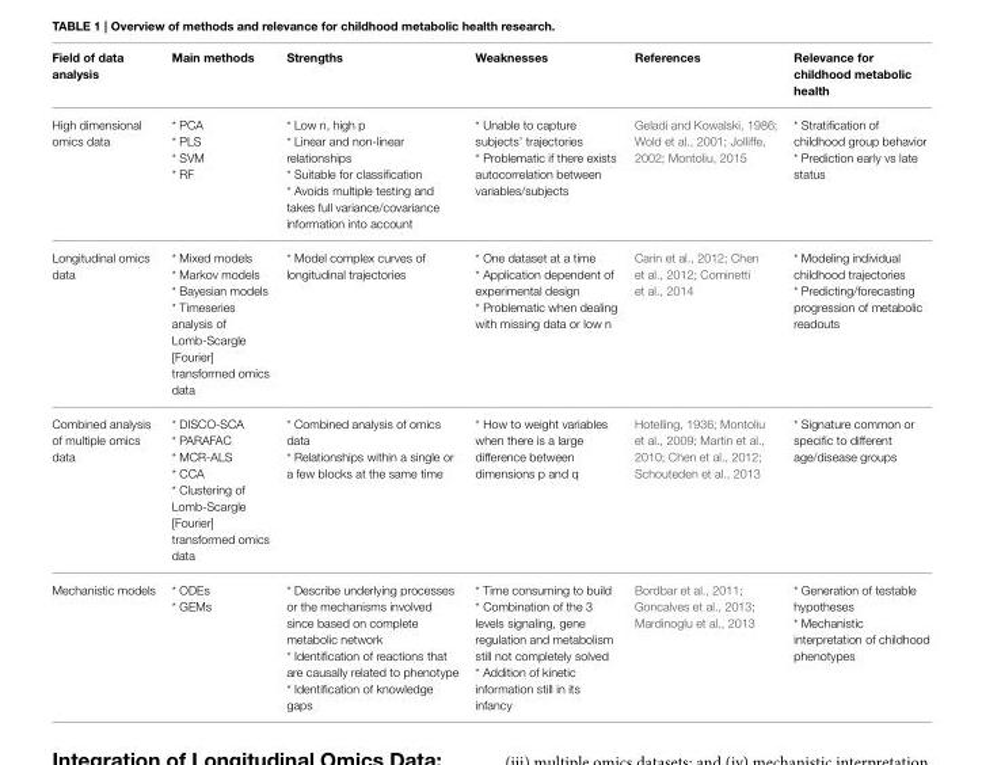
<table><thead><tr><td>Field of data analysis</td><td>Main methods</td><td>Strengths</td><td>Weaknesses</td><td>References</td><td>Relevance for childhood metabolic health</td></tr></thead><tbody><tr><td>High dimensional omics data</td><td>* PCA * PLS * SVM * RF</td><td>* Low n, high p * Linear and non-linear relationships * Suitable for classification * Avoids multiple testing and takes full variance/covariance information into account</td><td>* Unable to capture subjects’ trajectories * Problematic if there exists autocorrelation between variables/subjects</td><td>Geladi and Kowalski, 1986; Wold et al., 2001; Jolliffe, 2002; Montoliu, 2015</td><td>* Stratification of childhood group behavior * Prediction early vs late status</td></tr><tr><td>Longitudinal omics data</td><td>* Mixed models * Markov models * Bayesian models * Timeseries analysis of Lomb-Scargle [Fourier] transformed omics data</td><td>* Model complex curves of longitudinal trajectories</td><td>* One dataset at a time * Application dependent of experimental design * Problematic when dealing with missing data or low n</td><td>Carin et al., 2012; Chen et al., 2012; Cominetti et al., 2014</td><td>* Modeling individual childhood trajectories * Predicting/forecasting progression of metabolic readouts</td></tr><tr><td>Combined analysis of multiple omics data</td><td>* DISCO-SCA * PARAFAC * MCR-ALS * CCA * Clustering of Lomb-Scargle [Fourier] transformed omics data</td><td>* Combined analysis of omics data * Relationships within a single or a few blocks at the same time</td><td>* How to weight variables when there is a large difference between dimensions p and q</td><td>Hotelling, 1936; Montoliu et al., 2009; Martin et al., 2010; Chen et al., 2012; Schouteden et al., 2013</td><td>* Signature common or specific to different age/disease groups</td></tr><tr><td>Mechanistic models</td><td>* ODEs * GEMs</td><td>* Describe underlying processes or the mechanisms involved since based on complete metabolic network * Identification of reactions that are causally related to phenotype * Identification of knowledge gaps</td><td>* Time consuming to build * Combination of the 3 levels signaling, gene regulation and metabolism still not completely solved * Addition of kinetic information still in its infancy</td><td>Bordbar et al., 2011; Goncalves et al., 2013; Mardinoglu et al., 2013</td><td>* Generation of testable hypotheses * Mechanistic interpretation of childhood phenotypes</td></tr></tbody></table>